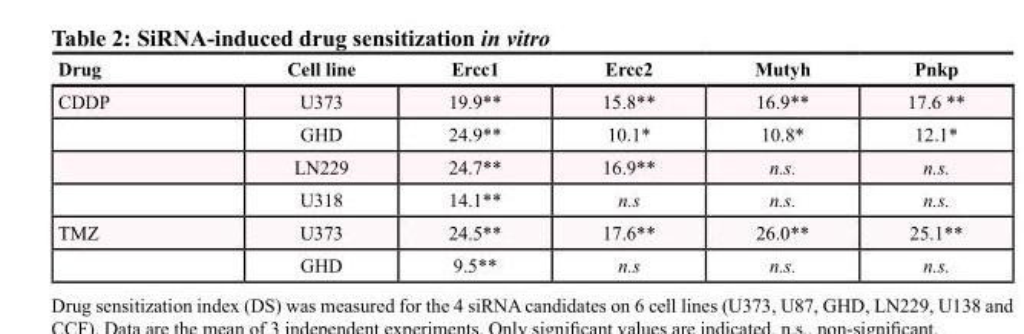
<table><thead><tr><td>Drug</td><td>Cell line</td><td>Ercc1</td><td>Ercc2</td><td>Mutyh</td><td>Pnkp</td></tr></thead><tbody><tr><td rowspan="4">CDDP</td><td>U373</td><td>19.9**</td><td>15.8**</td><td>16.9**</td><td>17.6 **</td></tr><tr><td>GHD</td><td>24.9**</td><td>10.1*</td><td>10.8*</td><td>12.1*</td></tr><tr><td>LN229</td><td>24.7**</td><td>16.9**</td><td>n.s.</td><td>n.s.</td></tr><tr><td>U318</td><td>14.1**</td><td>n.s</td><td>n.s.</td><td>n.s.</td></tr><tr><td rowspan="2">TMZ</td><td>U373</td><td>24.5**</td><td>17.6**</td><td>26.0**</td><td>25.1**</td></tr><tr><td>GHD</td><td>9.5**</td><td>n.s</td><td>n.s.</td><td>n.s.</td></tr></tbody></table>